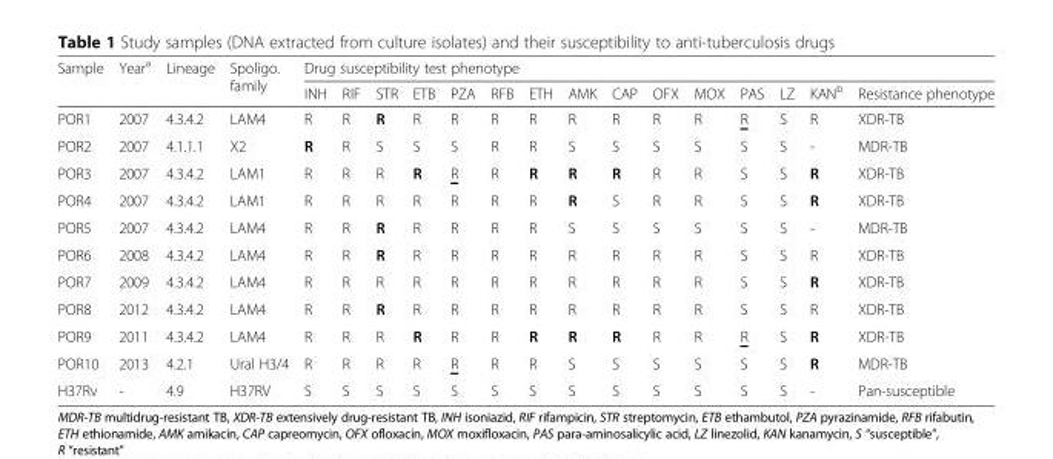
<table><thead><tr><td rowspan="2">Sample</td><td rowspan="2">Year<sup>a</sup></td><td rowspan="2">Lineage</td><td rowspan="2">Spoligo. family</td><td colspan="15">Drug susceptibility test phenotype</td></tr><tr><td>INH</td><td>RIF</td><td>STR</td><td>ETB</td><td>PZA</td><td>RFB</td><td>ETH</td><td>AMK</td><td>CAP</td><td>OFX</td><td>MOX</td><td>PAS</td><td>LZ</td><td>KAN<sup>b</sup></td><td>Resistance phenotype</td></tr></thead><tbody><tr><td>POR1</td><td>2007</td><td>4.3.4.2</td><td>LAM4</td><td>R</td><td>R</td><td>R</td><td>R</td><td>R</td><td>R</td><td>R</td><td>R</td><td>R</td><td>R</td><td>R</td><td>R</td><td>S</td><td>R</td><td>XDR-TB</td></tr><tr><td>POR2</td><td>2007</td><td>4.1.1.1</td><td>X2</td><td>R</td><td>R</td><td>S</td><td>S</td><td>S</td><td>R</td><td>R</td><td>S</td><td>S</td><td>S</td><td>S</td><td>S</td><td>S</td><td>-</td><td>MDR-TB</td></tr><tr><td>POR3</td><td>2007</td><td>4.3.4.2</td><td>LAM1</td><td>R</td><td>R</td><td>R</td><td>R</td><td>R</td><td>R</td><td>R</td><td>R</td><td>R</td><td>R</td><td>R</td><td>S</td><td>S</td><td>R</td><td>XDR-TB</td></tr><tr><td>POR4</td><td>2007</td><td>4.3.4.2</td><td>LAM1</td><td>R</td><td>R</td><td>R</td><td>R</td><td>R</td><td>R</td><td>R</td><td>R</td><td>S</td><td>R</td><td>R</td><td>S</td><td>S</td><td>R</td><td>XDR-TB</td></tr><tr><td>POR5</td><td>2007</td><td>4.3.4.2</td><td>LAM4</td><td>R</td><td>R</td><td>R</td><td>R</td><td>R</td><td>R</td><td>R</td><td>S</td><td>S</td><td>S</td><td>S</td><td>S</td><td>S</td><td>-</td><td>MDR-TB</td></tr><tr><td>POR6</td><td>2008</td><td>4.3.4.2</td><td>LAM4</td><td>R</td><td>R</td><td>R</td><td>R</td><td>R</td><td>R</td><td>R</td><td>R</td><td>R</td><td>R</td><td>R</td><td>S</td><td>S</td><td>R</td><td>XDR-TB</td></tr><tr><td>POR7</td><td>2009</td><td>4.3.4.2</td><td>LAM4</td><td>R</td><td>R</td><td>R</td><td>R</td><td>R</td><td>R</td><td>R</td><td>R</td><td>R</td><td>R</td><td>R</td><td>S</td><td>S</td><td>R</td><td>XDR-TB</td></tr><tr><td>POR8</td><td>2012</td><td>4.3.4.2</td><td>LAM4</td><td>R</td><td>R</td><td>R</td><td>R</td><td>R</td><td>R</td><td>R</td><td>R</td><td>R</td><td>R</td><td>R</td><td>S</td><td>S</td><td>R</td><td>XDR-TB</td></tr><tr><td>POR9</td><td>2011</td><td>4.3.4.2</td><td>LAM4</td><td>R</td><td>R</td><td>R</td><td>R</td><td>R</td><td>R</td><td>R</td><td>R</td><td>R</td><td>R</td><td>R</td><td>R</td><td>S</td><td>R</td><td>XDR-TB</td></tr><tr><td>POR10</td><td>2013</td><td>4.2.1</td><td>Ural H3/4</td><td>R</td><td>R</td><td>R</td><td>R</td><td>R</td><td>R</td><td>R</td><td>S</td><td>S</td><td>S</td><td>S</td><td>S</td><td>S</td><td>R</td><td>MDR-TB</td></tr><tr><td>H37Rv</td><td>-</td><td>4.9</td><td>H37RV</td><td>S</td><td>S</td><td>S</td><td>S</td><td>S</td><td>S</td><td>S</td><td>S</td><td>S</td><td>S</td><td>S</td><td>S</td><td>S</td><td>-</td><td>Pan-susceptible</td></tr></tbody></table>